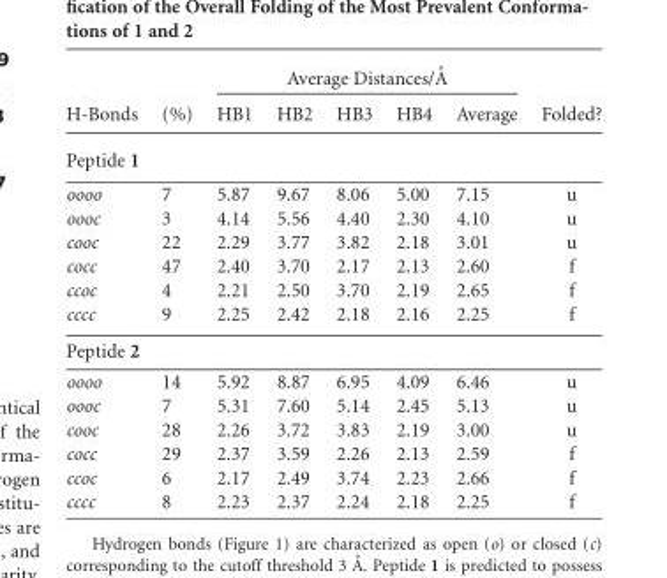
<table><thead><tr><td rowspan="2">H-Bonds</td><td rowspan="2">(%)</td><td colspan="5">Average Distances/A˚</td><td rowspan="2">Folded?</td></tr><tr><td>HB1</td><td>HB2</td><td>HB3</td><td>HB4</td><td>Average</td></tr></thead><tbody><tr><td colspan="8">Peptide 1</td></tr><tr><td>oooo</td><td>7</td><td>5.87</td><td>9.67</td><td>8.06</td><td>5.00</td><td>7.15</td><td>u</td></tr><tr><td>oooc</td><td>3</td><td>4.14</td><td>5.56</td><td>4.40</td><td>2.30</td><td>4.10</td><td>u</td></tr><tr><td>cooc</td><td>22</td><td>2.29</td><td>3.77</td><td>3.82</td><td>2.18</td><td>3.01</td><td>u</td></tr><tr><td>cocc</td><td>47</td><td>2.40</td><td>3.70</td><td>2.17</td><td>2.13</td><td>2.60</td><td>f</td></tr><tr><td>ccoc</td><td>4</td><td>2.21</td><td>2.50</td><td>3.70</td><td>2.19</td><td>2.65</td><td>f</td></tr><tr><td>cccc</td><td>9</td><td>2.25</td><td>2.42</td><td>2.18</td><td>2.16</td><td>2.25</td><td>f</td></tr><tr><td colspan="8">Peptide 2</td></tr><tr><td>oooo</td><td>14</td><td>5.92</td><td>8.87</td><td>6.95</td><td>4.09</td><td>6.46</td><td>u</td></tr><tr><td>oooc</td><td>7</td><td>5.31</td><td>7.60</td><td>5.14</td><td>2.45</td><td>5.13</td><td>u</td></tr><tr><td>cooc</td><td>28</td><td>2.26</td><td>3.72</td><td>3.83</td><td>2.19</td><td>3.00</td><td>u</td></tr><tr><td>cocc</td><td>29</td><td>2.37</td><td>3.59</td><td>2.26</td><td>2.13</td><td>2.59</td><td>f</td></tr><tr><td>ccoc</td><td>6</td><td>2.17</td><td>2.49</td><td>3.74</td><td>2.23</td><td>2.66</td><td>f</td></tr><tr><td>cccc</td><td>8</td><td>2.23</td><td>2.37</td><td>2.24</td><td>2.18</td><td>2.25</td><td>f</td></tr></tbody></table>